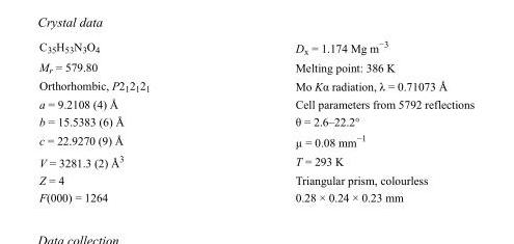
<table><tbody><tr><td>C<sub>35</sub>H<sub>53</sub>N<sub>3</sub>O<sub>4</sub></td><td>D<sub>x</sub> = 1.174 Mg m<sup>−3</sup></td></tr><tr><td>M<sub>r</sub> = 579.80</td><td>Melting point: 386 K</td></tr><tr><td>Orthorhombic, P2<sub>1</sub>2<sub>1</sub>2<sub>1</sub></td><td>Mo Kα radiation, λ = 0.71073 Å</td></tr><tr><td>a = 9.2108 (4) Å</td><td>Cell parameters from 5792 reflections</td></tr><tr><td>b = 15.5383 (6) Å</td><td>θ = 2.6–22.2°</td></tr><tr><td>c = 22.9270 (9) Å</td><td>µ = 0.08 mm<sup>−1</sup></td></tr><tr><td>V = 3281.3 (2) Å<sup>3</sup></td><td>T = 293 K</td></tr><tr><td>Z = 4</td><td>Triangular prism, colourless</td></tr><tr><td>F(000) = 1264</td><td>0.28 × 0.24 × 0.23 mm</td></tr></tbody></table>